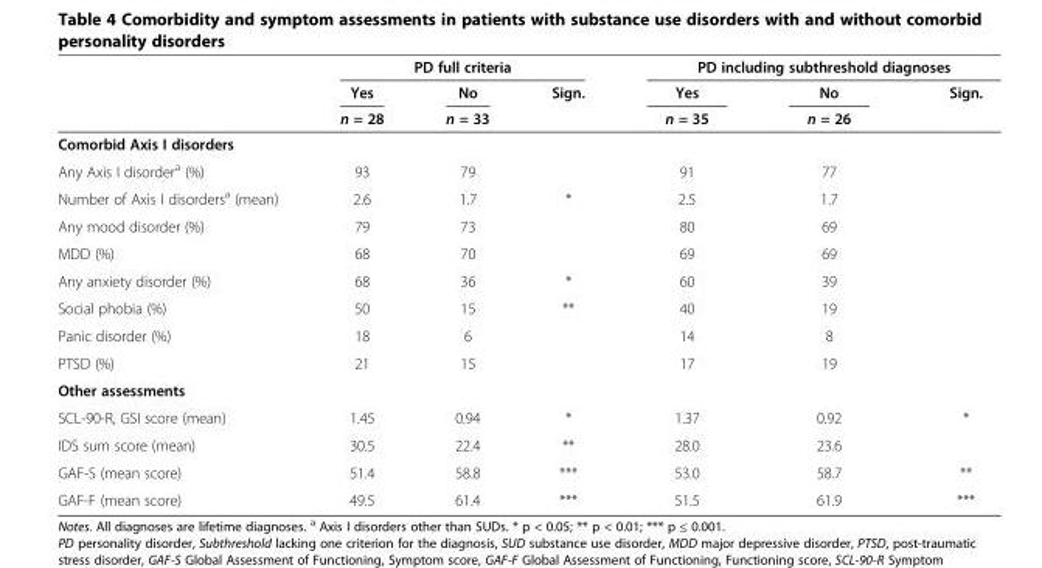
<table><thead><tr><td rowspan="3"></td><td colspan="3">PD full criteria</td><td colspan="3">PD including subthreshold diagnoses</td></tr><tr><td rowspan="2">Yes n = 28</td><td rowspan="2">No n = 33</td><td rowspan="2">Sign.</td><td rowspan="2">Yes n = 35</td><td rowspan="2">No n = 26</td><td rowspan="2">Sign.</td></tr><tr></tr></thead><tbody><tr><td colspan="7">Comorbid Axis I disorders</td></tr><tr><td>Any Axis I disorder<sup>a</sup> (%)</td><td>93</td><td>79</td><td></td><td>91</td><td>77</td><td></td></tr><tr><td>Number of Axis I disorders<sup>a</sup> (mean)</td><td>2.6</td><td>1.7</td><td>*</td><td>2.5</td><td>1.7</td><td></td></tr><tr><td>Any mood disorder (%)</td><td>79</td><td>73</td><td></td><td>80</td><td>69</td><td></td></tr><tr><td>MDD (%)</td><td>68</td><td>70</td><td></td><td>69</td><td>69</td><td></td></tr><tr><td>Any anxiety disorder (%)</td><td>68</td><td>36</td><td>*</td><td>60</td><td>39</td><td></td></tr><tr><td>Social phobia (%)</td><td>50</td><td>15</td><td>**</td><td>40</td><td>19</td><td></td></tr><tr><td>Panic disorder (%)</td><td>18</td><td>6</td><td></td><td>14</td><td>8</td><td></td></tr><tr><td>PTSD (%)</td><td>21</td><td>15</td><td></td><td>17</td><td>19</td><td></td></tr><tr><td colspan="7">Other assessments</td></tr><tr><td>SCL-90-R, GSI score (mean)</td><td>1.45</td><td>0.94</td><td>*</td><td>1.37</td><td>0.92</td><td>*</td></tr><tr><td>IDS sum score (mean)</td><td>30.5</td><td>22.4</td><td>**</td><td>28.0</td><td>23.6</td><td></td></tr><tr><td>GAF-S (mean score)</td><td>51.4</td><td>58.8</td><td>***</td><td>53.0</td><td>58.7</td><td>**</td></tr><tr><td>GAF-F (mean score)</td><td>49.5</td><td>61.4</td><td>***</td><td>51.5</td><td>61.9</td><td>***</td></tr></tbody></table>